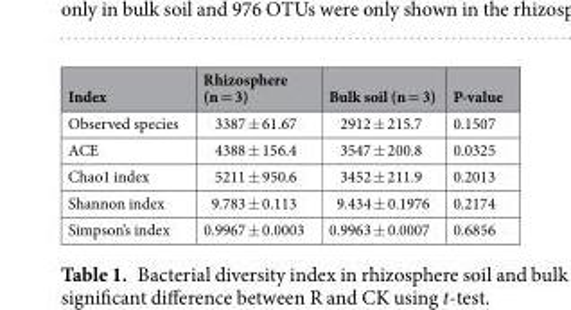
<table><thead><tr><td>Index</td><td>Rhizosphere (n = 3)</td><td>Bulk soil (n = 3)</td><td>P-value</td></tr></thead><tbody><tr><td>Observed species</td><td>3387 ± 61.67</td><td>2912 ± 215.7</td><td>0.1507</td></tr><tr><td>ACE</td><td>4388 ± 156.4</td><td>3547 ± 200.8</td><td>0.0325</td></tr><tr><td>Chao1 index</td><td>5211 ± 950.6</td><td>3452 ± 211.9</td><td>0.2013</td></tr><tr><td>Shannon index</td><td>9.783 ± 0.113</td><td>9.434 ± 0.1976</td><td>0.2174</td></tr><tr><td>Simpson’s index</td><td>0.9967 ± 0.0003</td><td>0.9963 ± 0.0007</td><td>0.6856</td></tr></tbody></table>